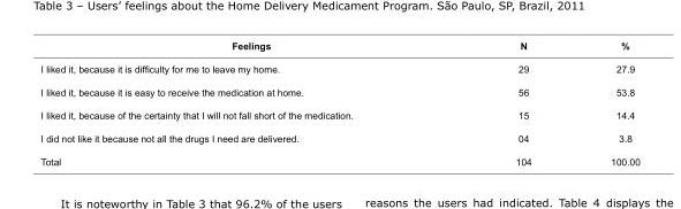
<table><tbody><tr><td>Feelings</td><td>N</td><td>%</td></tr><tr><td>I liked it, because it is difficulty for me to leave my home.</td><td>29</td><td>27.9</td></tr><tr><td>I liked it, because it is easy to receive the medication at home.</td><td>56</td><td>53.8</td></tr><tr><td>I liked it, because of the certainty that I will not fall short of the medication.</td><td>15</td><td>14.4</td></tr><tr><td>I did not like it because not all the drugs I need are delivered.</td><td>04</td><td>3.8</td></tr><tr><td>Total</td><td>104</td><td>100.00</td></tr></tbody></table>